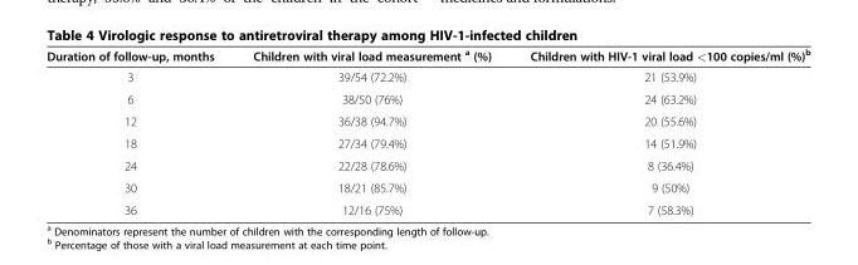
<table><thead><tr><td>Duration of follow-up, months</td><td>Children with viral load measurement <sup>a</sup> (%)</td><td>Children with HIV-1 viral load &lt;100 copies/ml (%)<sup>b</sup></td></tr></thead><tbody><tr><td>3</td><td>39/54 (72.2%)</td><td>21 (53.9%)</td></tr><tr><td>6</td><td>38/50 (76%)</td><td>24 (63.2%)</td></tr><tr><td>12</td><td>36/38 (94.7%)</td><td>20 (55.6%)</td></tr><tr><td>18</td><td>27/34 (79.4%)</td><td>14 (51.9%)</td></tr><tr><td>24</td><td>22/28 (78.6%)</td><td>8 (36.4%)</td></tr><tr><td>30</td><td>18/21 (85.7%)</td><td>9 (50%)</td></tr><tr><td>36</td><td>12/16 (75%)</td><td>7 (58.3%)</td></tr></tbody></table>